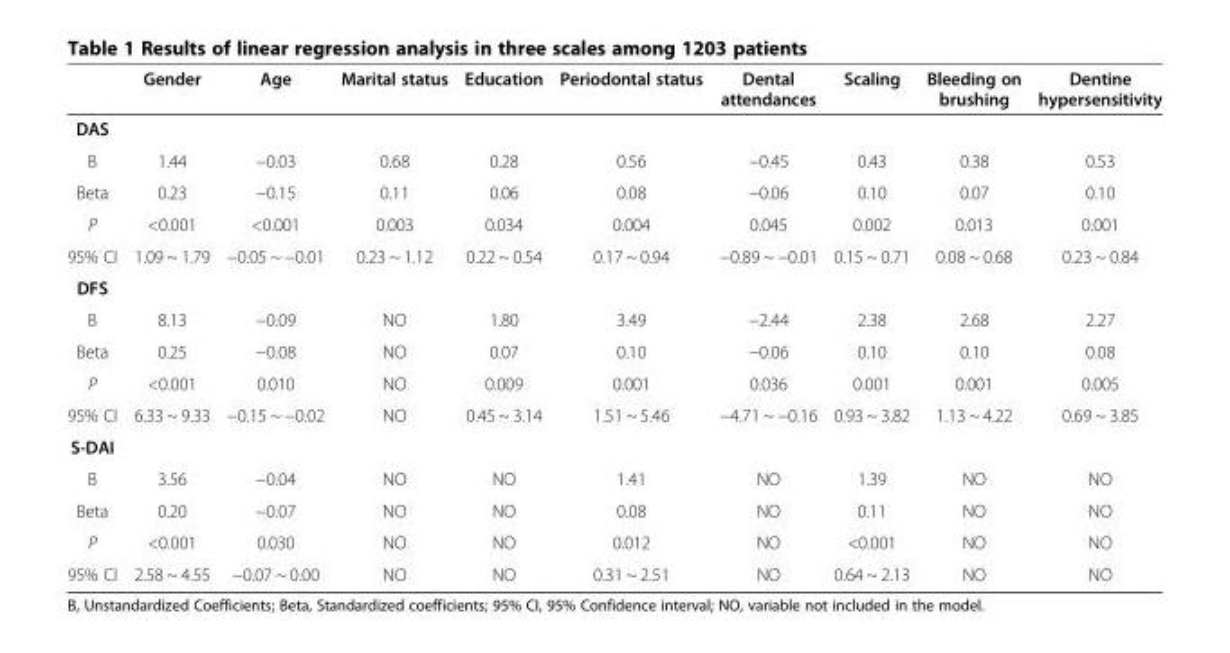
<table><thead><tr><td></td><td>Gender</td><td>Age</td><td>Marital status</td><td>Education</td><td>Periodontal status</td><td>Dental attendances</td><td>Scaling</td><td>Bleeding on brushing</td><td>Dentine hypersensitivity</td></tr></thead><tbody><tr><td colspan="10">DAS</td></tr><tr><td>B</td><td>1.44</td><td>−0.03</td><td>0.68</td><td>0.28</td><td>0.56</td><td>−0.45</td><td>0.43</td><td>0.38</td><td>0.53</td></tr><tr><td>Beta</td><td>0.23</td><td>−0.15</td><td>0.11</td><td>0.06</td><td>0.08</td><td>−0.06</td><td>0.10</td><td>0.07</td><td>0.10</td></tr><tr><td>P</td><td>&lt;0.001</td><td>&lt;0.001</td><td>0.003</td><td>0.034</td><td>0.004</td><td>0.045</td><td>0.002</td><td>0.013</td><td>0.001</td></tr><tr><td>95% CI</td><td>1.09 ~ 1.79</td><td>−0.05 ~ −0.01</td><td>0.23 ~ 1.12</td><td>0.22 ~ 0.54</td><td>0.17 ~ 0.94</td><td>−0.89 ~ −0.01</td><td>0.15 ~ 0.71</td><td>0.08 ~ 0.68</td><td>0.23 ~ 0.84</td></tr><tr><td colspan="10">DFS</td></tr><tr><td>B</td><td>8.13</td><td>−0.09</td><td>NO</td><td>1.80</td><td>3.49</td><td>−2.44</td><td>2.38</td><td>2.68</td><td>2.27</td></tr><tr><td>Beta</td><td>0.25</td><td>−0.08</td><td>NO</td><td>0.07</td><td>0.10</td><td>−0.06</td><td>0.10</td><td>0.10</td><td>0.08</td></tr><tr><td>P</td><td>&lt;0.001</td><td>0.010</td><td>NO</td><td>0.009</td><td>0.001</td><td>0.036</td><td>0.001</td><td>0.001</td><td>0.005</td></tr><tr><td>95% CI</td><td>6.33 ~ 9.33</td><td>−0.15 ~ −0.02</td><td>NO</td><td>0.45 ~ 3.14</td><td>1.51 ~ 5.46</td><td>−4.71 ~ −0.16</td><td>0.93 ~ 3.82</td><td>1.13 ~ 4.22</td><td>0.69 ~ 3.85</td></tr><tr><td colspan="10">S-DAI</td></tr><tr><td>B</td><td>3.56</td><td>−0.04</td><td>NO</td><td>NO</td><td>1.41</td><td>NO</td><td>1.39</td><td>NO</td><td>NO</td></tr><tr><td>Beta</td><td>0.20</td><td>−0.07</td><td>NO</td><td>NO</td><td>0.08</td><td>NO</td><td>0.11</td><td>NO</td><td>NO</td></tr><tr><td>P</td><td>&lt;0.001</td><td>0.030</td><td>NO</td><td>NO</td><td>0.012</td><td>NO</td><td>&lt;0.001</td><td>NO</td><td>NO</td></tr><tr><td>95% CI</td><td>2.58 ~ 4.55</td><td>−0.07 ~ 0.00</td><td>NO</td><td>NO</td><td>0.31 ~ 2.51</td><td>NO</td><td>0.64 ~ 2.13</td><td>NO</td><td>NO</td></tr></tbody></table>